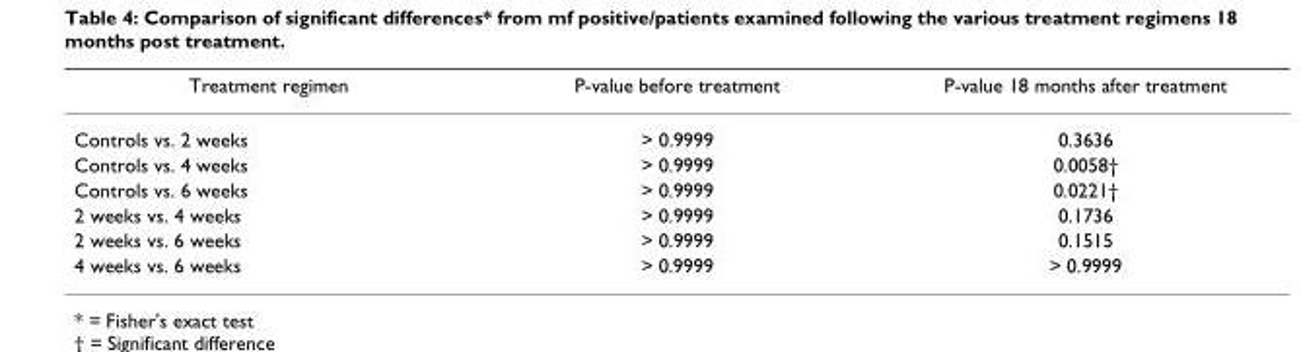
<table><thead><tr><td>Treatment regimen</td><td>P-value before treatment</td><td>P-value 18 months after treatment</td></tr></thead><tbody><tr><td>Controls vs. 2 weeks</td><td>&gt; 0.9999</td><td>0.3636</td></tr><tr><td>Controls vs. 4 weeks</td><td>&gt; 0.9999</td><td>0.0058†</td></tr><tr><td>Controls vs. 6 weeks</td><td>&gt; 0.9999</td><td>0.0221†</td></tr><tr><td>2 weeks vs. 4 weeks</td><td>&gt; 0.9999</td><td>0.1736</td></tr><tr><td>2 weeks vs. 6 weeks</td><td>&gt; 0.9999</td><td>0.1515</td></tr><tr><td>4 weeks vs. 6 weeks</td><td>&gt; 0.9999</td><td>&gt; 0.9999</td></tr></tbody></table>